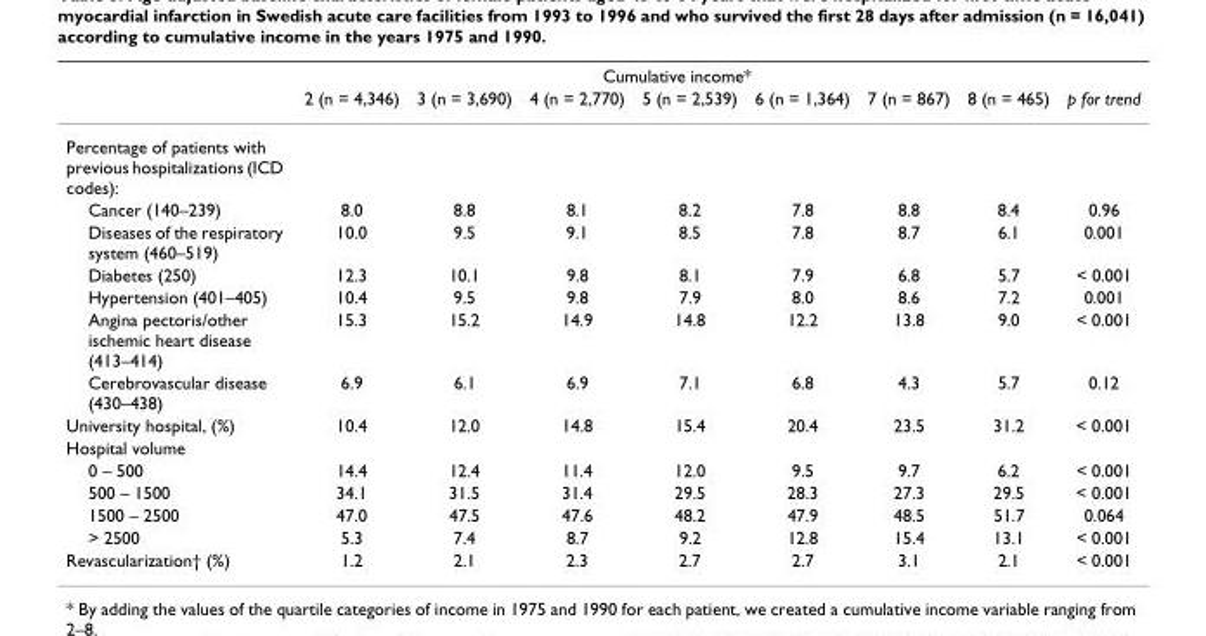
<table><thead><tr><td rowspan="2"></td><td colspan="7">Cumulative income*</td><td rowspan="2">p for trend</td></tr><tr><td>2 (n = 4,346)</td><td>3 (n = 3,690)</td><td>4 (n = 2,770)</td><td>5 (n = 2,539)</td><td>6 (n = 1,364)</td><td>7 (n = 867)</td><td>8 (n = 465)</td></tr></thead><tbody><tr><td colspan="9">Percentage of patients with previous hospitalizations (ICD codes):</td></tr><tr><td>Cancer (140–239)</td><td>8.0</td><td>8.8</td><td>8.1</td><td>8.2</td><td>7.8</td><td>8.8</td><td>8.4</td><td>0.96</td></tr><tr><td>Diseases of the respiratory system (460–519)</td><td>10.0</td><td>9.5</td><td>9.1</td><td>8.5</td><td>7.8</td><td>8.7</td><td>6.1</td><td>0.001</td></tr><tr><td>Diabetes (250)</td><td>12.3</td><td>10.1</td><td>9.8</td><td>8.1</td><td>7.9</td><td>6.8</td><td>5.7</td><td>&lt; 0.001</td></tr><tr><td>Hypertension (401–405)</td><td>10.4</td><td>9.5</td><td>9.8</td><td>7.9</td><td>8.0</td><td>8.6</td><td>7.2</td><td>0.001</td></tr><tr><td>Angina pectoris/other ischemic heart disease (413–414)</td><td>15.3</td><td>15.2</td><td>14.9</td><td>14.8</td><td>12.2</td><td>13.8</td><td>9.0</td><td>&lt; 0.001</td></tr><tr><td>Cerebrovascular disease (430–438)</td><td>6.9</td><td>6.1</td><td>6.9</td><td>7.1</td><td>6.8</td><td>4.3</td><td>5.7</td><td>0.12</td></tr><tr><td>University hospital, (%)</td><td>10.4</td><td>12.0</td><td>14.8</td><td>15.4</td><td>20.4</td><td>23.5</td><td>31.2</td><td>&lt; 0.001</td></tr><tr><td colspan="9">Hospital volume</td></tr><tr><td>0 – 500</td><td>14.4</td><td>12.4</td><td>11.4</td><td>12.0</td><td>9.5</td><td>9.7</td><td>6.2</td><td>&lt; 0.001</td></tr><tr><td>500 – 1500</td><td>34.1</td><td>31.5</td><td>31.4</td><td>29.5</td><td>28.3</td><td>27.3</td><td>29.5</td><td>&lt; 0.001</td></tr><tr><td>1500 – 2500</td><td>47.0</td><td>47.5</td><td>47.6</td><td>48.2</td><td>47.9</td><td>48.5</td><td>51.7</td><td>0.064</td></tr><tr><td>&gt; 2500</td><td>5.3</td><td>7.4</td><td>8.7</td><td>9.2</td><td>12.8</td><td>15.4</td><td>13.1</td><td>&lt; 0.001</td></tr><tr><td>Revascularization† (%)</td><td>1.2</td><td>2.1</td><td>2.3</td><td>2.7</td><td>2.7</td><td>3.1</td><td>2.1</td><td>&lt; 0.001</td></tr></tbody></table>